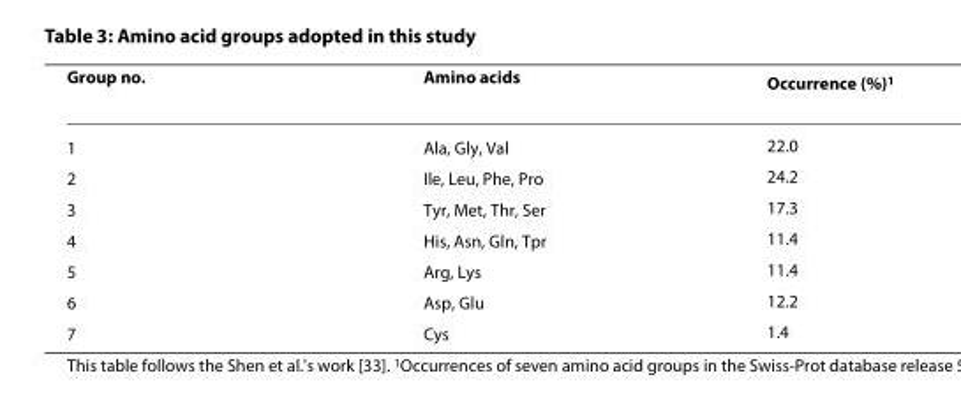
<table><thead><tr><td>Group no.</td><td>Amino acids</td><td>Occurrence (%)<sup>1</sup></td></tr></thead><tbody><tr><td>1</td><td>Ala, Gly, Val</td><td>22.0</td></tr><tr><td>2</td><td>Ile, Leu, Phe, Pro</td><td>24.2</td></tr><tr><td>3</td><td>Tyr, Met, Thr, Ser</td><td>17.3</td></tr><tr><td>4</td><td>His, Asn, Gln, Tpr</td><td>11.4</td></tr><tr><td>5</td><td>Arg, Lys</td><td>11.4</td></tr><tr><td>6</td><td>Asp, Glu</td><td>12.2</td></tr><tr><td>7</td><td>Cys</td><td>1.4</td></tr></tbody></table>